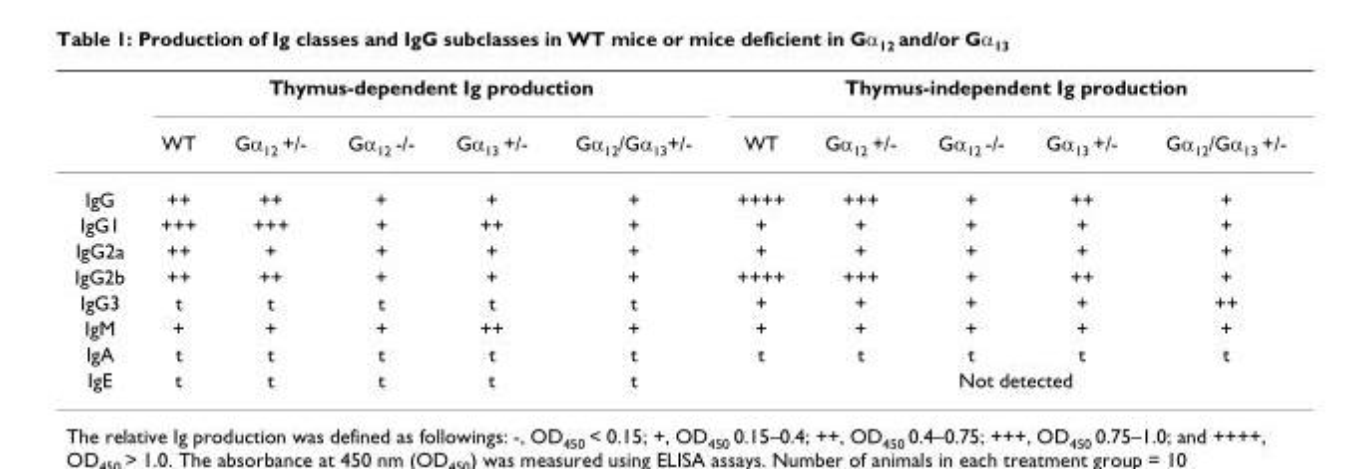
<table><thead><tr><td rowspan="2"></td><td colspan="5">Thymus-dependent Ig production</td><td colspan="5">Thymus-independent Ig production</td></tr><tr><td>WT</td><td>Gα<sub>12</sub> +/-</td><td>Gα<sub>12</sub> -/-</td><td>Gα<sub>13</sub> +/-</td><td>Gα<sub>12</sub>/Gα<sub>13</sub>+/-</td><td>WT</td><td>Gα<sub>12</sub> +/-</td><td>Gα<sub>12</sub> -/-</td><td>Gα<sub>13</sub> +/-</td><td>Gα<sub>12</sub>/Gα<sub>13</sub> +/-</td></tr></thead><tbody><tr><td>IgG</td><td>++</td><td>++</td><td>+</td><td>+</td><td>+</td><td>++++</td><td>+++</td><td>+</td><td>++</td><td>+</td></tr><tr><td>IgG1</td><td>+++</td><td>+++</td><td>+</td><td>++</td><td>+</td><td>+</td><td>+</td><td>+</td><td>+</td><td>+</td></tr><tr><td>IgG2a</td><td>++</td><td>+</td><td>+</td><td>+</td><td>+</td><td>+</td><td>+</td><td>+</td><td>+</td><td>+</td></tr><tr><td>IgG2b</td><td>++</td><td>++</td><td>+</td><td>+</td><td>+</td><td>++++</td><td>+++</td><td>+</td><td>++</td><td>+</td></tr><tr><td>IgG3</td><td>t</td><td>t</td><td>t</td><td>t</td><td>t</td><td>+</td><td>+</td><td>+</td><td>+</td><td>++</td></tr><tr><td>IgM</td><td>+</td><td>+</td><td>+</td><td>++</td><td>+</td><td>+</td><td>+</td><td>+</td><td>+</td><td>+</td></tr><tr><td>IgA</td><td>t</td><td>t</td><td>t</td><td>t</td><td>t</td><td>t</td><td>t</td><td>t</td><td>t</td><td>t</td></tr><tr><td>IgE</td><td>t</td><td>t</td><td>t</td><td>t</td><td>t</td><td colspan="5">Not detected</td></tr></tbody></table>